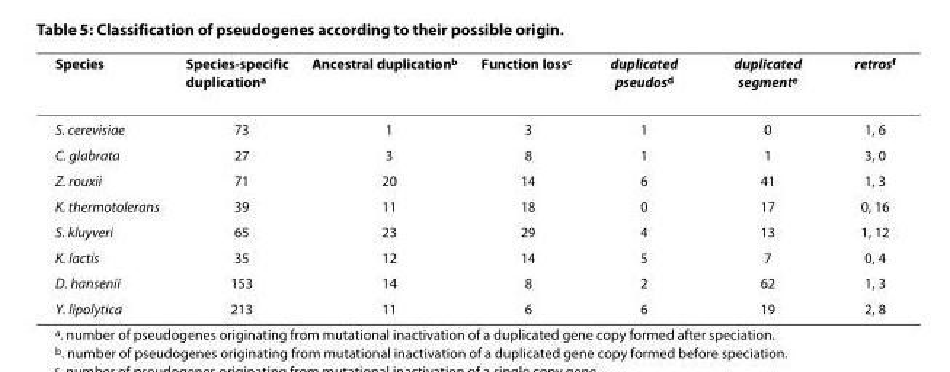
<table><thead><tr><td>Species</td><td>Species-specific duplication<sup>a</sup></td><td>Ancestral duplication<sup>b</sup></td><td>Function loss<sup>c</sup></td><td>duplicated pseudos<sup>d</sup></td><td>duplicated segment<sup>e</sup></td><td>retros<sup>f</sup></td></tr></thead><tbody><tr><td>S. cerevisiae</td><td>73</td><td>1</td><td>3</td><td>1</td><td>0</td><td>1, 6</td></tr><tr><td>C. glabrata</td><td>27</td><td>3</td><td>8</td><td>1</td><td>1</td><td>3, 0</td></tr><tr><td>Z. rouxii</td><td>71</td><td>20</td><td>14</td><td>6</td><td>41</td><td>1, 3</td></tr><tr><td>K. thermotolerans</td><td>39</td><td>11</td><td>18</td><td>0</td><td>17</td><td>0, 16</td></tr><tr><td>S. kluyveri</td><td>65</td><td>23</td><td>29</td><td>4</td><td>13</td><td>1, 12</td></tr><tr><td>K. lactis</td><td>35</td><td>12</td><td>14</td><td>5</td><td>7</td><td>0, 4</td></tr><tr><td>D. hansenii</td><td>153</td><td>14</td><td>8</td><td>2</td><td>62</td><td>1, 3</td></tr><tr><td>Y. lipolytica</td><td>213</td><td>11</td><td>6</td><td>6</td><td>19</td><td>2, 8</td></tr></tbody></table>